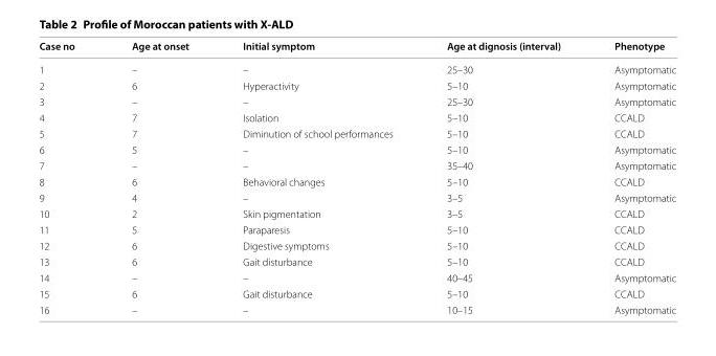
<table><thead><tr><td>Case no</td><td>Age at onset</td><td>Initial symptom</td><td>Age at dignosis (interval)</td><td>Phenotype</td></tr></thead><tbody><tr><td>1</td><td>–</td><td>–</td><td>25–30</td><td>Asymptomatic</td></tr><tr><td>2</td><td>6</td><td>Hyperactivity</td><td>5–10</td><td>Asymptomatic</td></tr><tr><td>3</td><td>–</td><td>–</td><td>25–30</td><td>Asymptomatic</td></tr><tr><td>4</td><td>7</td><td>Isolation</td><td>5–10</td><td>CCALD</td></tr><tr><td>5</td><td>7</td><td>Diminution of school performances</td><td>5–10</td><td>CCALD</td></tr><tr><td>6</td><td>5</td><td>–</td><td>5–10</td><td>Asymptomatic</td></tr><tr><td>7</td><td>–</td><td>–</td><td>35–40</td><td>Asymptomatic</td></tr><tr><td>8</td><td>6</td><td>Behavioral changes</td><td>5–10</td><td>CCALD</td></tr><tr><td>9</td><td>4</td><td>–</td><td>3–5</td><td>Asymptomatic</td></tr><tr><td>10</td><td>2</td><td>Skin pigmentation</td><td>3–5</td><td>CCALD</td></tr><tr><td>11</td><td>5</td><td>Paraparesis</td><td>5–10</td><td>CCALD</td></tr><tr><td>12</td><td>6</td><td>Digestive symptoms</td><td>5–10</td><td>CCALD</td></tr><tr><td>13</td><td>6</td><td>Gait disturbance</td><td>5–10</td><td>CCALD</td></tr><tr><td>14</td><td>–</td><td>–</td><td>40–45</td><td>Asymptomatic</td></tr><tr><td>15</td><td>6</td><td>Gait disturbance</td><td>5–10</td><td>CCALD</td></tr><tr><td>16</td><td>–</td><td>–</td><td>10–15</td><td>Asymptomatic</td></tr></tbody></table>